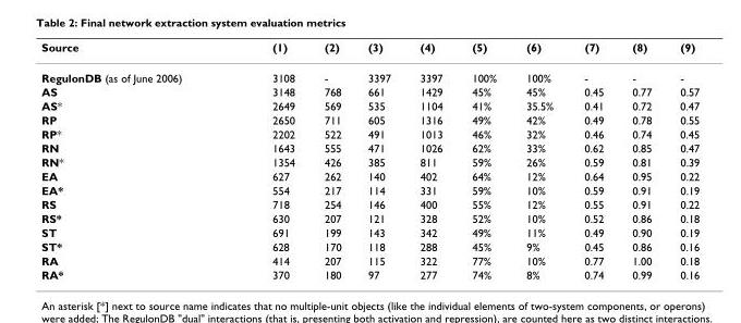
<table><thead><tr><td>Source</td><td>(1)</td><td>(2)</td><td>(3)</td><td>(4)</td><td>(5)</td><td>(6)</td><td>(7)</td><td>(8)</td><td>(9)</td></tr></thead><tbody><tr><td>RegulonDB (as of June 2006)</td><td>3108</td><td>-</td><td>3397</td><td>3397</td><td>100%</td><td>100%</td><td>-</td><td>-</td><td>-</td></tr><tr><td>AS</td><td>3148</td><td>768</td><td>661</td><td>1429</td><td>45%</td><td>45%</td><td>0.45</td><td>0.77</td><td>0.57</td></tr><tr><td>AS*</td><td>2649</td><td>569</td><td>535</td><td>1104</td><td>41%</td><td>35.5%</td><td>0.41</td><td>0.72</td><td>0.47</td></tr><tr><td>RP</td><td>2650</td><td>711</td><td>605</td><td>1316</td><td>49%</td><td>42%</td><td>0.49</td><td>0.78</td><td>0.55</td></tr><tr><td>RP*</td><td>2202</td><td>522</td><td>491</td><td>1013</td><td>46%</td><td>32%</td><td>0.46</td><td>0.74</td><td>0.45</td></tr><tr><td>RN</td><td>1643</td><td>555</td><td>471</td><td>1026</td><td>62%</td><td>33%</td><td>0.62</td><td>0.85</td><td>0.47</td></tr><tr><td>RN*</td><td>1354</td><td>426</td><td>385</td><td>811</td><td>59%</td><td>26%</td><td>0.59</td><td>0.81</td><td>0.39</td></tr><tr><td>EA</td><td>627</td><td>262</td><td>140</td><td>402</td><td>64%</td><td>12%</td><td>0.64</td><td>0.95</td><td>0.22</td></tr><tr><td>EA*</td><td>554</td><td>217</td><td>114</td><td>331</td><td>59%</td><td>10%</td><td>0.59</td><td>0.91</td><td>0.19</td></tr><tr><td>RS</td><td>718</td><td>254</td><td>146</td><td>400</td><td>55%</td><td>12%</td><td>0.55</td><td>0.91</td><td>0.22</td></tr><tr><td>RS*</td><td>630</td><td>207</td><td>121</td><td>328</td><td>52%</td><td>10%</td><td>0.52</td><td>0.86</td><td>0.18</td></tr><tr><td>ST</td><td>691</td><td>199</td><td>143</td><td>342</td><td>49%</td><td>11%</td><td>0.49</td><td>0.90</td><td>0.19</td></tr><tr><td>ST*</td><td>628</td><td>170</td><td>118</td><td>288</td><td>45%</td><td>9%</td><td>0.45</td><td>0.86</td><td>0.16</td></tr><tr><td>RA</td><td>414</td><td>207</td><td>115</td><td>322</td><td>77%</td><td>10%</td><td>0.77</td><td>1.00</td><td>0.18</td></tr><tr><td>RA*</td><td>370</td><td>180</td><td>97</td><td>277</td><td>74%</td><td>8%</td><td>0.74</td><td>0.99</td><td>0.16</td></tr></tbody></table>